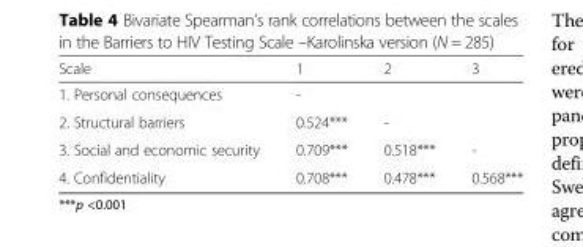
<table><thead><tr><td>Scale</td><td>1</td><td>2</td><td>3</td></tr></thead><tbody><tr><td>1. Personal consequences</td><td>-</td><td></td><td></td></tr><tr><td>2. Structural barriers</td><td>0.524***</td><td>-</td><td></td></tr><tr><td>3. Social and economic security</td><td>0.709***</td><td>0.518***</td><td>-</td></tr><tr><td>4. Confidentiality</td><td>0.708***</td><td>0.478***</td><td>0.568***</td></tr></tbody></table>